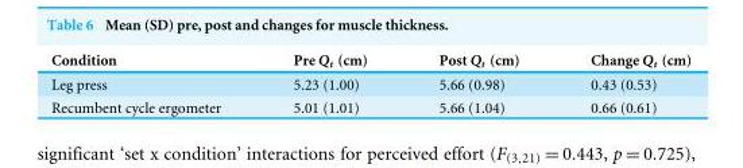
<table><thead><tr><td>Condition</td><td>Pre Q<sub>t</sub> (cm)</td><td>Post Q<sub>t</sub> (cm)</td><td>Change Q<sub>t</sub> (cm)</td></tr></thead><tbody><tr><td>Leg press</td><td>5.23 (1.00)</td><td>5.66 (0.98)</td><td>0.43 (0.53)</td></tr><tr><td>Recumbent cycle ergometer</td><td>5.01 (1.01)</td><td>5.66 (1.04)</td><td>0.66 (0.61)</td></tr></tbody></table>